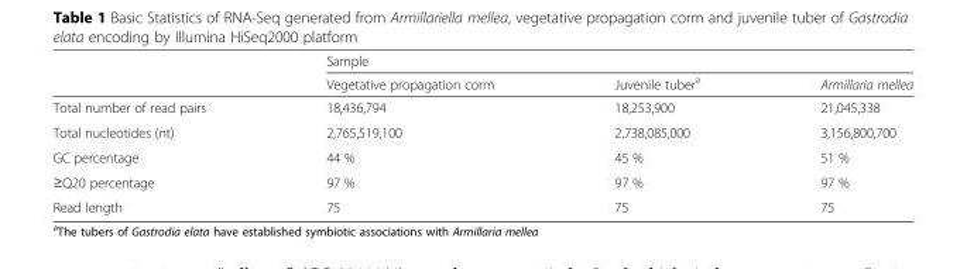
<table><thead><tr><td rowspan="2"></td><td colspan="3">Sample</td></tr><tr><td>Vegetative propagation corm</td><td>Juvenile tuber<sup>a</sup></td><td>Armillaria mellea</td></tr></thead><tbody><tr><td>Total number of read pairs</td><td>18,436,794</td><td>18,253,900</td><td>21,045,338</td></tr><tr><td>Total nucleotides (nt)</td><td>2,765,519,100</td><td>2,738,085,000</td><td>3,156,800,700</td></tr><tr><td>GC percentage</td><td>44 %</td><td>45 %</td><td>51 %</td></tr><tr><td>≥Q20 percentage</td><td>97 %</td><td>97 %</td><td>97 %</td></tr><tr><td>Read length</td><td>75</td><td>75</td><td>75</td></tr></tbody></table>